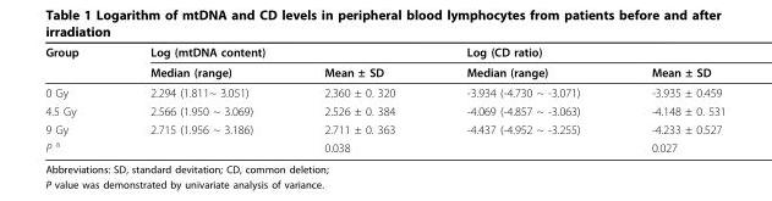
<table><thead><tr><td rowspan="2">Group</td><td colspan="2">Log (mtDNA content)</td><td colspan="2">Log (CD ratio)</td></tr><tr><td>Median (range)</td><td>Mean ± SD</td><td>Median (range)</td><td>Mean ± SD</td></tr></thead><tbody><tr><td>0 Gy</td><td>2.294 (1.811~ 3.051)</td><td>2.360 ± 0. 320</td><td>-3.934 (-4.730 ~ -3.071)</td><td>-3.935 ± 0.459</td></tr><tr><td>4.5 Gy</td><td>2.566 (1.950 ~ 3.069)</td><td>2.526 ± 0. 384</td><td>-4.069 (-4.857 ~ -3.063)</td><td>-4.148 ± 0. 531</td></tr><tr><td>9 Gy</td><td>2.715 (1.956 ~ 3.186)</td><td>2.711 ± 0. 363</td><td>-4.437 (-4.952 ~ -3.255)</td><td>-4.233 ± 0.527</td></tr><tr><td colspan="2">P <sup>a</sup></td><td>0.038</td><td></td><td>0.027</td></tr></tbody></table>